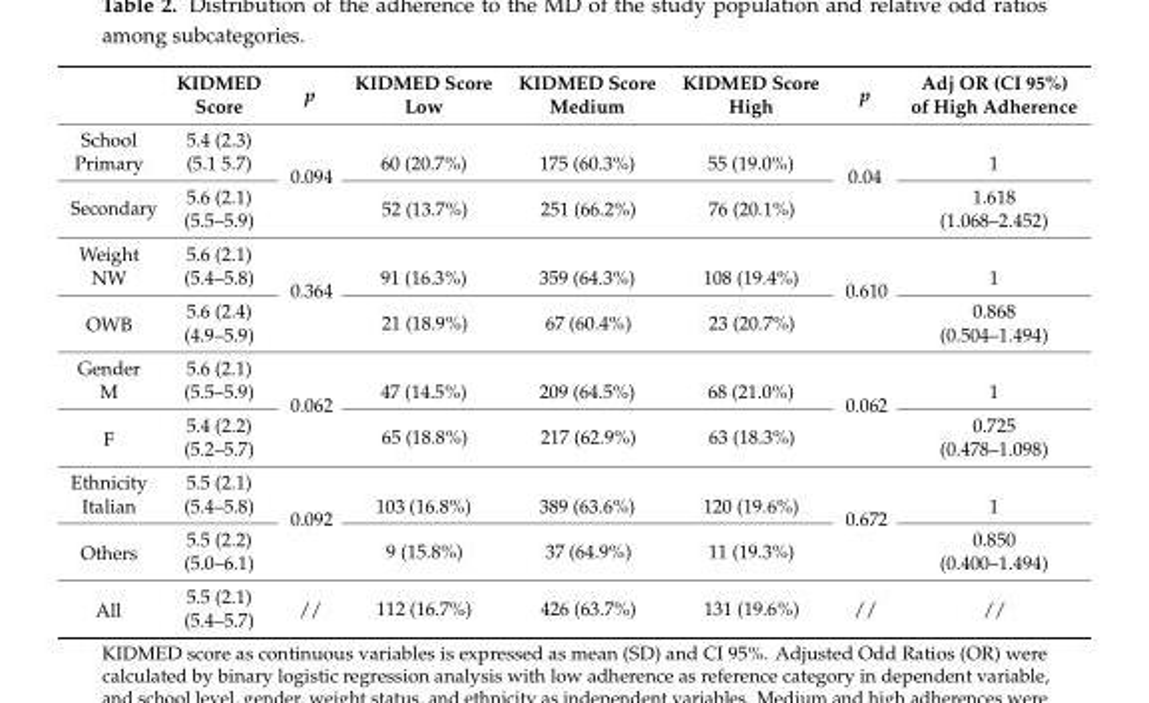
<table><thead><tr><td></td><td>KIDMED Score</td><td>p</td><td>KIDMED Score Low</td><td>KIDMED Score Medium</td><td>KIDMED Score High</td><td>p</td><td>Adj OR (CI 95%) of High Adherence</td></tr></thead><tbody><tr><td>School</td><td>5.4 (2.3)</td><td rowspan="4">0.094</td><td></td><td></td><td></td><td rowspan="4">0.04</td><td></td></tr><tr><td>Primary</td><td>(5.1 5.7)</td><td>60 (20.7%)</td><td>175 (60.3%)</td><td>55 (19.0%)</td><td>1</td></tr><tr><td rowspan="2">Secondary</td><td>5.6 (2.1)</td><td rowspan="2">52 (13.7%)</td><td rowspan="2">251 (66.2%)</td><td rowspan="2">76 (20.1%)</td><td>1.618</td></tr><tr><td>(5.5–5.9)</td><td>(1.068–2.452)</td></tr><tr><td>Weight</td><td>5.6 (2.1)</td><td rowspan="4">0.364</td><td></td><td></td><td></td><td rowspan="4">0.610</td><td></td></tr><tr><td>NW</td><td>(5.4–5.8)</td><td>91 (16.3%)</td><td>359 (64.3%)</td><td>108 (19.4%)</td><td>1</td></tr><tr><td rowspan="2">OWB</td><td>5.6 (2.4)</td><td rowspan="2">21 (18.9%)</td><td rowspan="2">67 (60.4%)</td><td rowspan="2">23 (20.7%)</td><td>0.868</td></tr><tr><td>(4.9–5.9)</td><td>(0.504–1.494)</td></tr><tr><td>Gender</td><td>5.6 (2.1)</td><td rowspan="4">0.062</td><td></td><td></td><td></td><td rowspan="4">0.062</td><td></td></tr><tr><td>M</td><td>(5.5–5.9)</td><td>47 (14.5%)</td><td>209 (64.5%)</td><td>68 (21.0%)</td><td>1</td></tr><tr><td rowspan="2">F</td><td>5.4 (2.2)</td><td rowspan="2">65 (18.8%)</td><td rowspan="2">217 (62.9%)</td><td rowspan="2">63 (18.3%)</td><td>0.725</td></tr><tr><td>(5.2–5.7)</td><td>(0.478–1.098)</td></tr><tr><td>Ethnicity</td><td>5.5 (2.1)</td><td rowspan="4">0.092</td><td></td><td></td><td></td><td rowspan="4">0.672</td><td></td></tr><tr><td>Italian</td><td>(5.4–5.8)</td><td>103 (16.8%)</td><td>389 (63.6%)</td><td>120 (19.6%)</td><td>1</td></tr><tr><td rowspan="2">Others</td><td>5.5 (2.2)</td><td rowspan="2">9 (15.8%)</td><td rowspan="2">37 (64.9%)</td><td rowspan="2">11 (19.3%)</td><td>0.850</td></tr><tr><td>(5.0–6.1)</td><td>(0.400–1.494)</td></tr><tr><td rowspan="2">All</td><td>5.5 (2.1)</td><td rowspan="2">//</td><td rowspan="2">112 (16.7%)</td><td rowspan="2">426 (63.7%)</td><td rowspan="2">131 (19.6%)</td><td rowspan="2">//</td><td rowspan="2">//</td></tr><tr><td>(5.4–5.7)</td></tr></tbody></table>